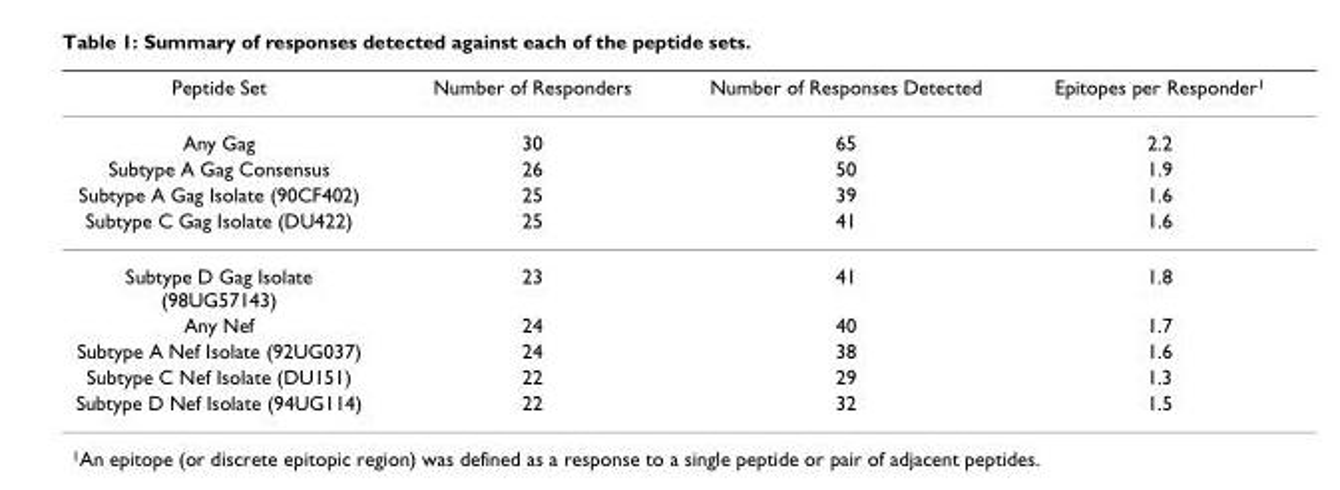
<table><thead><tr><td>Peptide Set</td><td>Number of Responders</td><td>Number of Responses Detected</td><td>Epitopes per Responder<sup>1</sup></td></tr></thead><tbody><tr><td>Any Gag</td><td>30</td><td>65</td><td>2.2</td></tr><tr><td>Subtype A Gag Consensus</td><td>26</td><td>50</td><td>1.9</td></tr><tr><td>Subtype A Gag Isolate (90CF402)</td><td>25</td><td>39</td><td>1.6</td></tr><tr><td>Subtype C Gag Isolate (DU422)</td><td>25</td><td>41</td><td>1.6</td></tr><tr><td>Subtype D Gag Isolate (98UG57143)</td><td>23</td><td>41</td><td>1.8</td></tr><tr><td>Any Nef</td><td>24</td><td>40</td><td>1.7</td></tr><tr><td>Subtype A Nef Isolate (92UG037)</td><td>24</td><td>38</td><td>1.6</td></tr><tr><td>Subtype C Nef Isolate (DU151)</td><td>22</td><td>29</td><td>1.3</td></tr><tr><td>Subtype D Nef Isolate (94UG114)</td><td>22</td><td>32</td><td>1.5</td></tr></tbody></table>